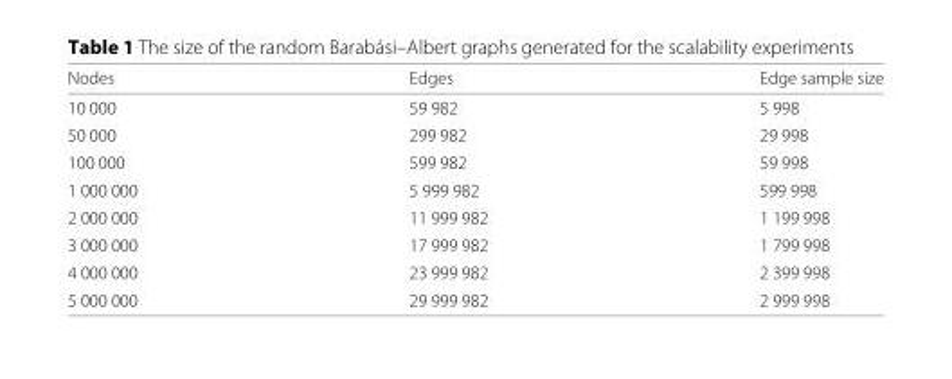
<table><thead><tr><td>Nodes</td><td>Edges</td><td>Edge sample size</td></tr></thead><tbody><tr><td>10 000</td><td>59 982</td><td>5 998</td></tr><tr><td>50 000</td><td>299 982</td><td>29 998</td></tr><tr><td>100 000</td><td>599 982</td><td>59 998</td></tr><tr><td>1 000 000</td><td>5 999 982</td><td>599 998</td></tr><tr><td>2 000 000</td><td>11 999 982</td><td>1 199 998</td></tr><tr><td>3 000 000</td><td>17 999 982</td><td>1 799 998</td></tr><tr><td>4 000 000</td><td>23 999 982</td><td>2 399 998</td></tr><tr><td>5 000 000</td><td>29 999 982</td><td>2 999 998</td></tr></tbody></table>